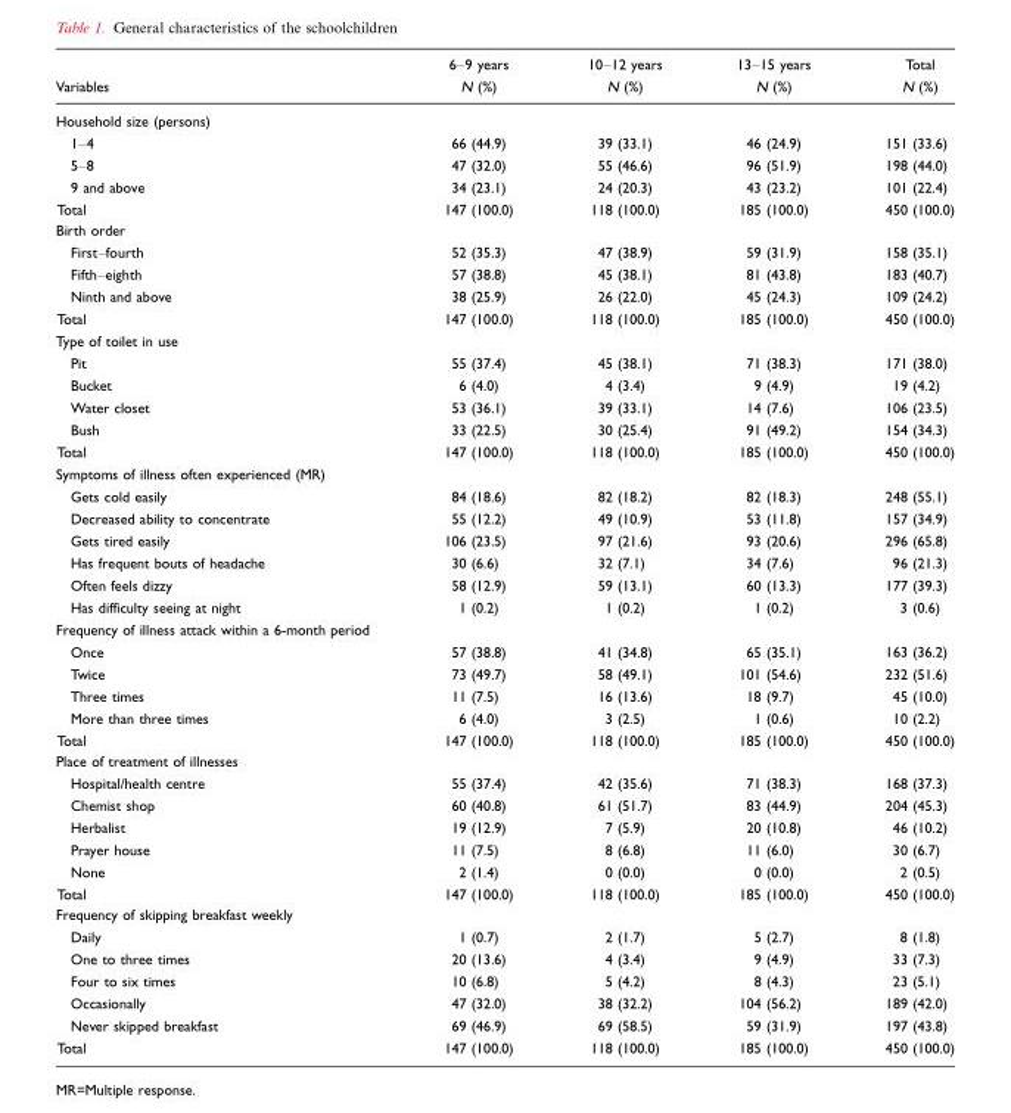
<table><thead><tr><td>Variables</td><td>6–9 years N (%)</td><td>10–12 years N (%)</td><td>13–15 years N (%)</td><td>Total N (%)</td></tr></thead><tbody><tr><td>Household size (persons) 1–4 5–8 9 and above Total</td><td>66 (44.9) 47 (32.0) 34 (23.1) 147 (100.0)</td><td>39 (33.1) 55 (46.6) 24 (20.3) 118 (100.0)</td><td>46 (24.9) 96 (51.9) 43 (23.2) 185 (100.0)</td><td>151 (33.6) 198 (44.0) 101 (22.4) 450 (100.0)</td></tr><tr><td>Birth order First–fourth Fifth–eighth Ninth and above Total</td><td>52 (35.3) 57 (38.8) 38 (25.9) 147 (100.0)</td><td>47 (38.9) 45 (38.1) 26 (22.0) 118 (100.0)</td><td>59 (31.9) 81 (43.8) 45 (24.3) 185 (100.0)</td><td>158 (35.1) 183 (40.7) 109 (24.2) 450 (100.0)</td></tr><tr><td>Type of toilet in use Pit Bucket Water closet Bush Total</td><td>55 (37.4) 6 (4.0) 53 (36.1) 33 (22.5) 147 (100.0)</td><td>45 (38.1) 4 (3.4) 39 (33.1) 30 (25.4) 118 (100.0)</td><td>71 (38.3) 9 (4.9) 14 (7.6) 91 (49.2) 185 (100.0)</td><td>171 (38.0) 19 (4.2) 106 (23.5) 154 (34.3) 450 (100.0)</td></tr><tr><td>Symptoms of illness often experienced (MR) Gets cold easily Decreased ability to concentrate Gets tired easily Has frequent bouts of headache Often feels dizzy Has difficulty seeing at night</td><td>84 (18.6) 55 (12.2) 106 (23.5) 30 (6.6) 58 (12.9) 1 (0.2)</td><td>82 (18.2) 49 (10.9) 97 (21.6) 32 (7.1) 59 (13.1) 1 (0.2)</td><td>82 (18.3) 53 (11.8) 93 (20.6) 34 (7.6) 60 (13.3) 1 (0.2)</td><td>248 (55.1) 157 (34.9) 296 (65.8) 96 (21.3) 177 (39.3) 3 (0.6)</td></tr><tr><td>Frequency of illness attack within a 6-month period Once Twice Three times More than three times Total</td><td>57 (38.8) 73 (49.7) 11 (7.5) 6 (4.0) 147 (100.0)</td><td>41 (34.8) 58 (49.1) 16 (13.6) 3 (2.5) 118 (100.0)</td><td>65 (35.1) 101 (54.6) 18 (9.7) 1 (0.6) 185 (100.0)</td><td>163 (36.2) 232 (51.6) 45 (10.0) 10 (2.2) 450 (100.0)</td></tr><tr><td>Place of treatment of illnesses Hospital/health centre Chemist shop Herbalist Prayer house None Total</td><td>55 (37.4) 60 (40.8) 19 (12.9) 11 (7.5) 2 (1.4) 147 (100.0)</td><td>42 (35.6) 61 (51.7) 7 (5.9) 8 (6.8) 0 (0.0) 118 (100.0)</td><td>71 (38.3) 83 (44.9) 20 (10.8) 11 (6.0) 0 (0.0) 185 (100.0)</td><td>168 (37.3) 204 (45.3) 46 (10.2) 30 (6.7) 2 (0.5) 450 (100.0)</td></tr><tr><td>Frequency of skipping breakfast weekly Daily One to three times Four to six times Occasionally Never skipped breakfast Total</td><td>1 (0.7) 20 (13.6) 10 (6.8) 47 (32.0) 69 (46.9) 147 (100.0)</td><td>2 (1.7) 4 (3.4) 5 (4.2) 38 (32.2) 69 (58.5) 118 (100.0)</td><td>5 (2.7) 9 (4.9) 8 (4.3) 104 (56.2) 59 (31.9) 185 (100.0)</td><td>8 (1.8) 33 (7.3) 23 (5.1) 189 (42.0) 197 (43.8) 450 (100.0)</td></tr></tbody></table>